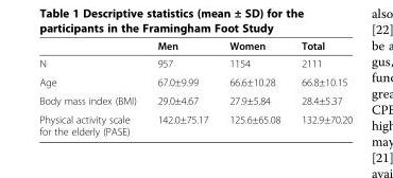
<table><thead><tr><td></td><td>Men</td><td>Women</td><td>Total</td></tr></thead><tbody><tr><td>N</td><td>957</td><td>1154</td><td>2111</td></tr><tr><td>Age</td><td>67.0±9.99</td><td>66.6±10.28</td><td>66.8±10.15</td></tr><tr><td>Body mass index (BMI)</td><td>29.0±4.67</td><td>27.9±5.84</td><td>28.4±5.37</td></tr><tr><td>Physical activity scale for the elderly (PASE)</td><td>142.0±75.17</td><td>125.6±65.08</td><td>132.9±70.20</td></tr></tbody></table>